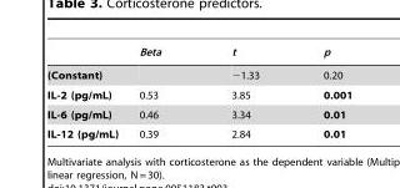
<table><thead><tr><td></td><td>Beta</td><td>t</td><td>p</td></tr></thead><tbody><tr><td>(Constant)</td><td></td><td>−1.33</td><td>0.20</td></tr><tr><td>IL-2 (pg/mL)</td><td>0.53</td><td>3.85</td><td>0.001</td></tr><tr><td>IL-6 (pg/mL)</td><td>0.46</td><td>3.34</td><td>0.01</td></tr><tr><td>IL-12 (pg/mL)</td><td>0.39</td><td>2.84</td><td>0.01</td></tr></tbody></table>